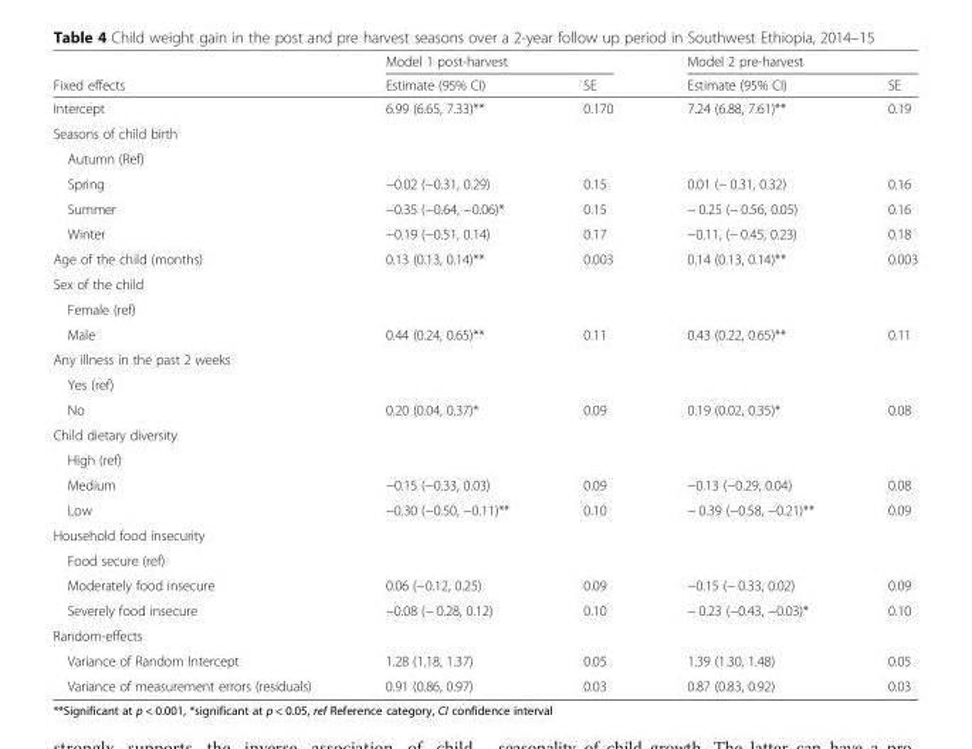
<table><thead><tr><td rowspan="2">Fixed effects</td><td colspan="2">Model 1 post-harvest</td><td colspan="2">Model 2 pre-harvest</td></tr><tr><td>Estimate (95% CI)</td><td>SE</td><td>Estimate (95% CI)</td><td>SE</td></tr></thead><tbody><tr><td>Intercept</td><td>6.99 (6.65, 7.33)**</td><td>0.170</td><td>7.24 (6.88, 7.61)**</td><td>0.19</td></tr><tr><td colspan="5">Seasons of child birth</td></tr><tr><td colspan="5">Autumn (Ref)</td></tr><tr><td>Spring</td><td>−0.02 (−0.31, 0.29)</td><td>0.15</td><td>0.01 (− 0.31, 0.32)</td><td>0.16</td></tr><tr><td>Summer</td><td>−0.35 (−0.64, −0.06)*</td><td>0.15</td><td>− 0.25 (− 0.56, 0.05)</td><td>0.16</td></tr><tr><td>Winter</td><td>−0.19 (−0.51, 0.14)</td><td>0.17</td><td>−0.11, (− 0.45, 0.23)</td><td>0.18</td></tr><tr><td>Age of the child (months)</td><td>0.13 (0.13, 0.14)**</td><td>0.003</td><td>0.14 (0.13, 0.14)**</td><td>0.003</td></tr><tr><td colspan="5">Sex of the child</td></tr><tr><td colspan="5">Female (ref)</td></tr><tr><td>Male</td><td>0.44 (0.24, 0.65)**</td><td>0.11</td><td>0.43 (0.22, 0.65)**</td><td>0.11</td></tr><tr><td colspan="5">Any illness in the past 2 weeks</td></tr><tr><td colspan="5">Yes (ref)</td></tr><tr><td>No</td><td>0.20 (0.04, 0.37)*</td><td>0.09</td><td>0.19 (0.02, 0.35)*</td><td>0.08</td></tr><tr><td colspan="5">Child dietary diversity</td></tr><tr><td colspan="5">High (ref)</td></tr><tr><td>Medium</td><td>−0.15 (−0.33, 0.03)</td><td>0.09</td><td>−0.13 (−0.29, 0.04)</td><td>0.08</td></tr><tr><td>Low</td><td>−0.30 (−0.50, −0.11)**</td><td>0.10</td><td>− 0.39 (−0.58, −0.21)**</td><td>0.09</td></tr><tr><td colspan="5">Household food insecurity</td></tr><tr><td colspan="5">Food secure (ref)</td></tr><tr><td>Moderately food insecure</td><td>0.06 (−0.12, 0.25)</td><td>0.09</td><td>−0.15 (− 0.33, 0.02)</td><td>0.09</td></tr><tr><td>Severely food insecure</td><td>−0.08 (− 0.28, 0.12)</td><td>0.10</td><td>− 0.23 (−0.43, −0.03)*</td><td>0.10</td></tr><tr><td colspan="5">Random-effects</td></tr><tr><td>Variance of Random Intercept</td><td>1.28 (1.18, 1.37)</td><td>0.05</td><td>1.39 (1.30, 1.48)</td><td>0.05</td></tr><tr><td>Variance of measurement errors (residuals)</td><td>0.91 (0.86, 0.97)</td><td>0.03</td><td>0.87 (0.83, 0.92)</td><td>0.03</td></tr></tbody></table>